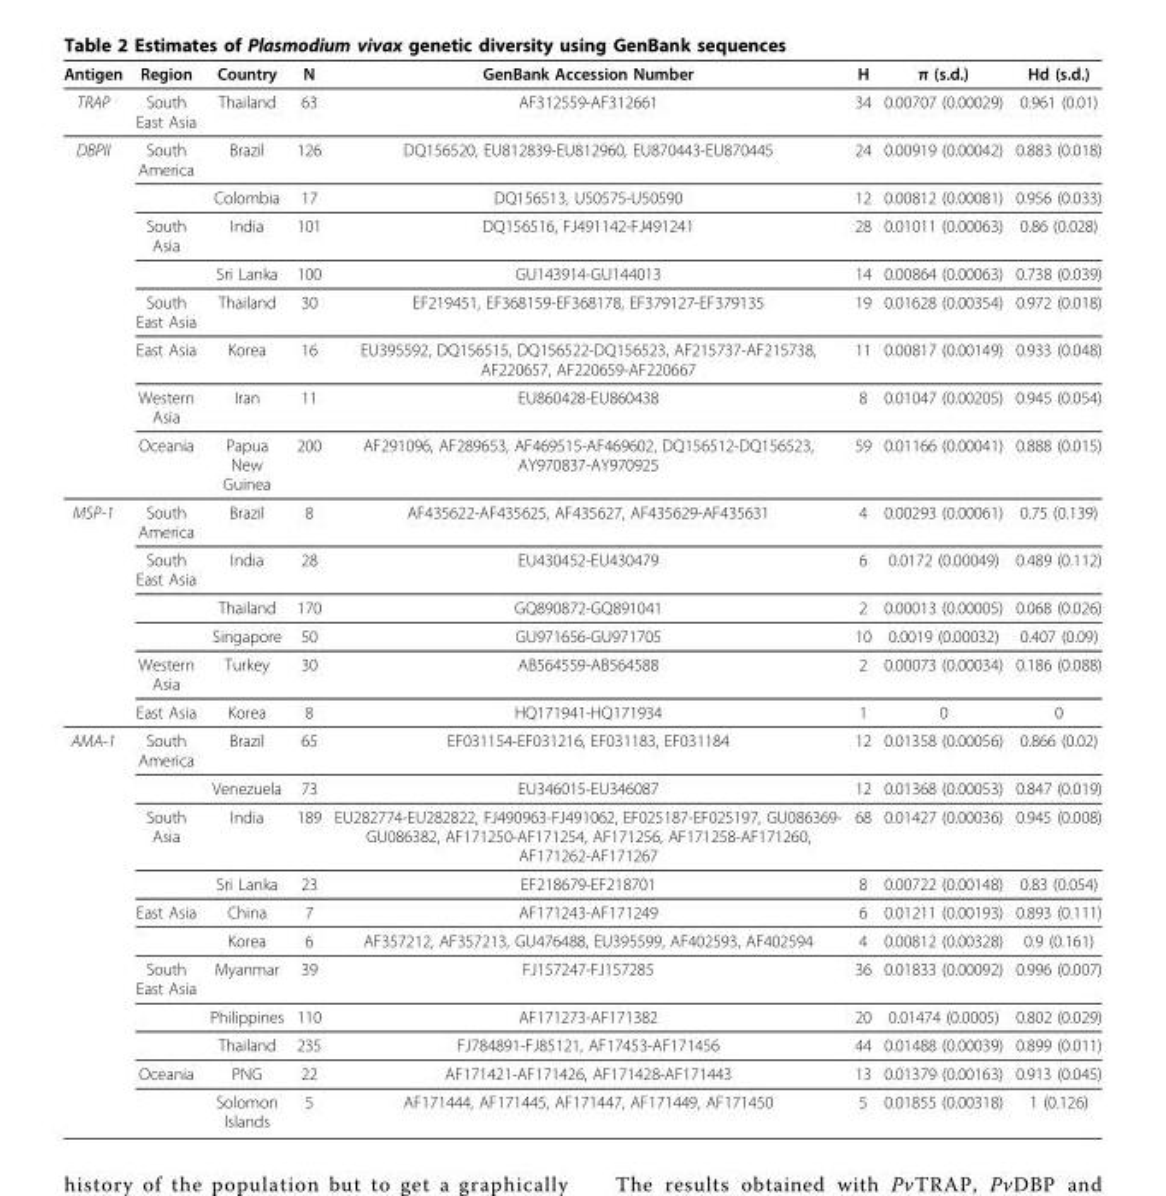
<table><thead><tr><td>Antigen</td><td>Region</td><td>Country</td><td>N</td><td>GenBank Accession Number</td><td>H</td><td>π (s.d.)</td><td>Hd (s.d.)</td></tr></thead><tbody><tr><td>TRAP</td><td>South East Asia</td><td>Thailand</td><td>63</td><td>AF312559-AF312661</td><td>34</td><td>0.00707 (0.00029)</td><td>0.961 (0.01)</td></tr><tr><td rowspan="8">DBPII</td><td>South America</td><td>Brazil</td><td>126</td><td>DQ156520, EU812839-EU812960, EU870443-EU870445</td><td>24</td><td>0.00919 (0.00042)</td><td>0.883 (0.018)</td></tr><tr><td></td><td>Colombia</td><td>17</td><td>DQ156513, U50575-U50590</td><td>12</td><td>0.00812 (0.00081)</td><td>0.956 (0.033)</td></tr><tr><td>South Asia</td><td>India</td><td>101</td><td>DQ156516, FJ491142-FJ491241</td><td>28</td><td>0.01011 (0.00063)</td><td>0.86 (0.028)</td></tr><tr><td></td><td>Sri Lanka</td><td>100</td><td>GU143914-GU144013</td><td>14</td><td>0.00864 (0.00063)</td><td>0.738 (0.039)</td></tr><tr><td>South East Asia</td><td>Thailand</td><td>30</td><td>EF219451, EF368159-EF368178, EF379127-EF379135</td><td>19</td><td>0.01628 (0.00354)</td><td>0.972 (0.018)</td></tr><tr><td>East Asia</td><td>Korea</td><td>16</td><td>EU395592, DQ156515, DQ156522-DQ156523, AF215737-AF215738, AF220657, AF220659-AF220667</td><td>11</td><td>0.00817 (0.00149)</td><td>0.933 (0.048)</td></tr><tr><td>Western Asia</td><td>Iran</td><td>11</td><td>EU860428-EU860438</td><td>8</td><td>0.01047 (0.00205)</td><td>0.945 (0.054)</td></tr><tr><td>Oceania</td><td>Papua New Guinea</td><td>200</td><td>AF291096, AF289653, AF469515-AF469602, DQ156512-DQ156523, AY970837-AY970925</td><td>59</td><td>0.01166 (0.00041)</td><td>0.888 (0.015)</td></tr><tr><td rowspan="6">MSP-1</td><td>South America</td><td>Brazil</td><td>8</td><td>AF435622-AF435625, AF435627, AF435629-AF435631</td><td>4</td><td>0.00293 (0.00061)</td><td>0.75 (0.139)</td></tr><tr><td>South East Asia</td><td>India</td><td>28</td><td>EU430452-EU430479</td><td>6</td><td>0.0172 (0.00049)</td><td>0.489 (0.112)</td></tr><tr><td></td><td>Thailand</td><td>170</td><td>GQ890872-GQ891041</td><td>2</td><td>0.00013 (0.00005)</td><td>0.068 (0.026)</td></tr><tr><td></td><td>Singapore</td><td>50</td><td>GU971656-GU971705</td><td>10</td><td>0.0019 (0.00032)</td><td>0.407 (0.09)</td></tr><tr><td>Western Asia</td><td>Turkey</td><td>30</td><td>AB564559-AB564588</td><td>2</td><td>0.00073 (0.00034)</td><td>0.186 (0.088)</td></tr><tr><td>East Asia</td><td>Korea</td><td>8</td><td>HQ171941-HQ171934</td><td>1</td><td>0</td><td>0</td></tr><tr><td rowspan="11">AMA-1</td><td>South America</td><td>Brazil</td><td>65</td><td>EF031154-EF031216, EF031183, EF031184</td><td>12</td><td>0.01358 (0.00056)</td><td>0.866 (0.02)</td></tr><tr><td></td><td>Venezuela</td><td>73</td><td>EU346015-EU346087</td><td>12</td><td>0.01368 (0.00053)</td><td>0.847 (0.019)</td></tr><tr><td>South Asia</td><td>India</td><td>189</td><td>EU282774-EU282822, FJ490963-FJ491062, EF025187-EF025197, GU086369- GU086382, AF171250-AF171254, AF171256, AF171258-AF171260, AF171262-AF171267</td><td>68</td><td>0.01427 (0.00036)</td><td>0.945 (0.008)</td></tr><tr><td></td><td>Sri Lanka</td><td>23</td><td>EF218679-EF218701</td><td>8</td><td>0.00722 (0.00148)</td><td>0.83 (0.054)</td></tr><tr><td>East Asia</td><td>China</td><td>7</td><td>AF171243-AF171249</td><td>6</td><td>0.01211 (0.00193)</td><td>0.893 (0.111)</td></tr><tr><td></td><td>Korea</td><td>6</td><td>AF357212, AF357213, GU476488, EU395599, AF402593, AF402594</td><td>4</td><td>0.00812 (0.00328)</td><td>0.9 (0.161)</td></tr><tr><td>South East Asia</td><td>Myanmar</td><td>39</td><td>FJ157247-FJ157285</td><td>36</td><td>0.01833 (0.00092)</td><td>0.996 (0.007)</td></tr><tr><td></td><td>Philippines</td><td>110</td><td>AF171273-AF171382</td><td>20</td><td>0.01474 (0.0005)</td><td>0.802 (0.029)</td></tr><tr><td></td><td>Thailand</td><td>235</td><td>FJ784891-FJ85121, AF17453-AF171456</td><td>44</td><td>0.01488 (0.00039)</td><td>0.899 (0.011)</td></tr><tr><td>Oceania</td><td>PNG</td><td>22</td><td>AF171421-AF171426, AF171428-AF171443</td><td>13</td><td>0.01379 (0.00163)</td><td>0.913 (0.045)</td></tr><tr><td></td><td>Solomon Islands</td><td>5</td><td>AF171444, AF171445, AF171447, AF171449, AF171450</td><td>5</td><td>0.01855 (0.00318)</td><td>1 (0.126)</td></tr></tbody></table>